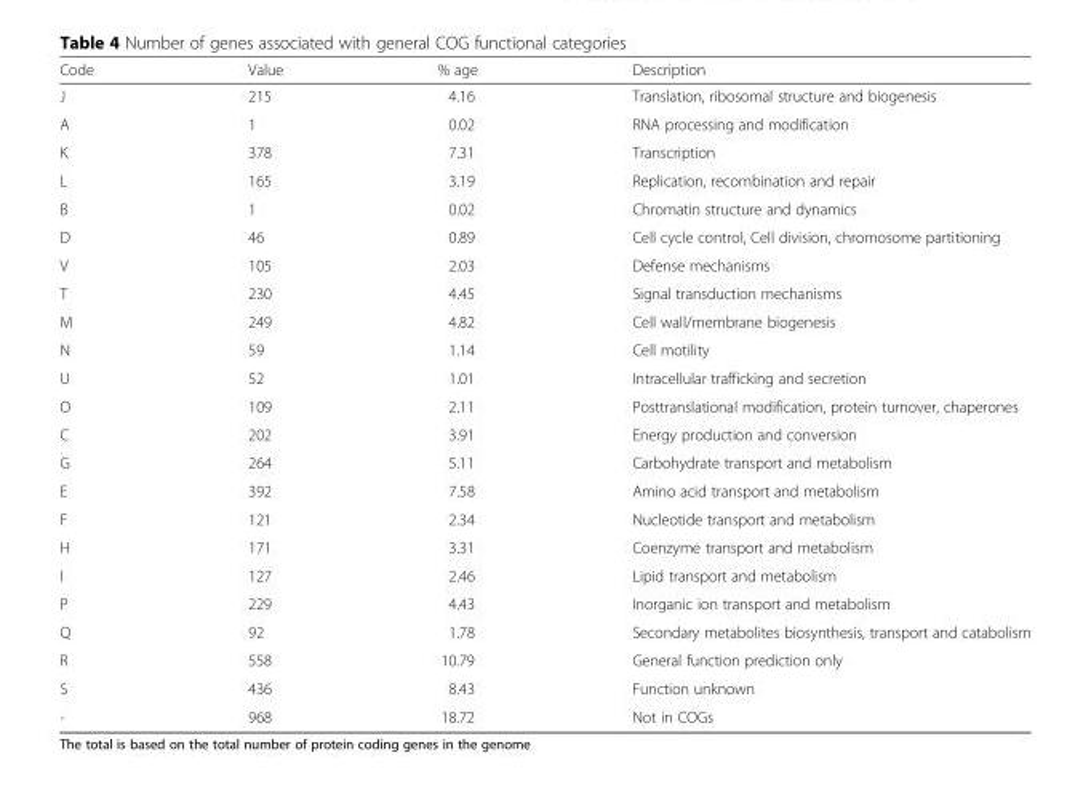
<table><thead><tr><td>Code</td><td>Value</td><td>% age</td><td>Description</td></tr></thead><tbody><tr><td>J</td><td>215</td><td>4.16</td><td>Translation, ribosomal structure and biogenesis</td></tr><tr><td>A</td><td>1</td><td>0.02</td><td>RNA processing and modification</td></tr><tr><td>K</td><td>378</td><td>7.31</td><td>Transcription</td></tr><tr><td>L</td><td>165</td><td>3.19</td><td>Replication, recombination and repair</td></tr><tr><td>B</td><td>1</td><td>0.02</td><td>Chromatin structure and dynamics</td></tr><tr><td>D</td><td>46</td><td>0.89</td><td>Cell cycle control, Cell division, chromosome partitioning</td></tr><tr><td>V</td><td>105</td><td>2.03</td><td>Defense mechanisms</td></tr><tr><td>T</td><td>230</td><td>4.45</td><td>Signal transduction mechanisms</td></tr><tr><td>M</td><td>249</td><td>4.82</td><td>Cell wall/membrane biogenesis</td></tr><tr><td>N</td><td>59</td><td>1.14</td><td>Cell motility</td></tr><tr><td>U</td><td>52</td><td>1.01</td><td>Intracellular trafficking and secretion</td></tr><tr><td>O</td><td>109</td><td>2.11</td><td>Posttranslational modification, protein turnover, chaperones</td></tr><tr><td>C</td><td>202</td><td>3.91</td><td>Energy production and conversion</td></tr><tr><td>G</td><td>264</td><td>5.11</td><td>Carbohydrate transport and metabolism</td></tr><tr><td>E</td><td>392</td><td>7.58</td><td>Amino acid transport and metabolism</td></tr><tr><td>F</td><td>121</td><td>2.34</td><td>Nucleotide transport and metabolism</td></tr><tr><td>H</td><td>171</td><td>3.31</td><td>Coenzyme transport and metabolism</td></tr><tr><td>I</td><td>127</td><td>2.46</td><td>Lipid transport and metabolism</td></tr><tr><td>P</td><td>229</td><td>4.43</td><td>Inorganic ion transport and metabolism</td></tr><tr><td>Q</td><td>92</td><td>1.78</td><td>Secondary metabolites biosynthesis, transport and catabolism</td></tr><tr><td>R</td><td>558</td><td>10.79</td><td>General function prediction only</td></tr><tr><td>S</td><td>436</td><td>8.43</td><td>Function unknown</td></tr><tr><td>-</td><td>968</td><td>18.72</td><td>Not in COGs</td></tr></tbody></table>